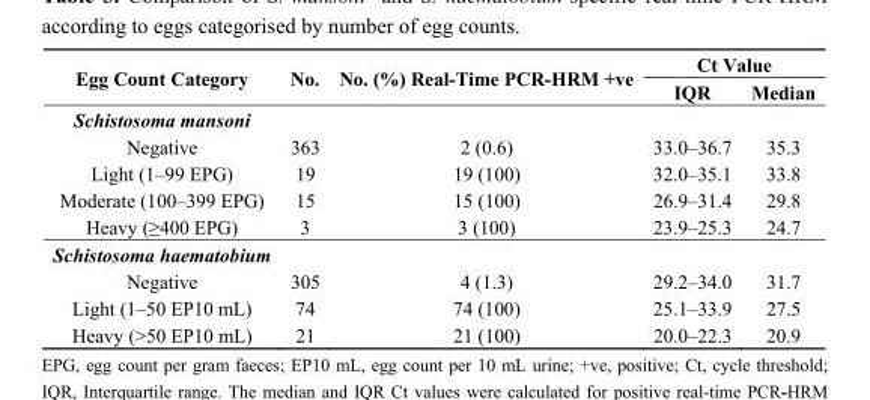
<table><thead><tr><td rowspan="2">Egg Count Category</td><td rowspan="2">No.</td><td rowspan="2">No. (%) Real-Time PCR-HRM +ve</td><td colspan="2">Ct Value</td></tr><tr><td>IQR</td><td>Median</td></tr></thead><tbody><tr><td colspan="5">Schistosoma mansoni</td></tr><tr><td>Negative</td><td>363</td><td>2 (0.6)</td><td>33.0–36.7</td><td>35.3</td></tr><tr><td>Light (1–99 EPG)</td><td>19</td><td>19 (100)</td><td>32.0–35.1</td><td>33.8</td></tr><tr><td>Moderate (100–399 EPG)</td><td>15</td><td>15 (100)</td><td>26.9–31.4</td><td>29.8</td></tr><tr><td>Heavy (≥400 EPG)</td><td>3</td><td>3 (100)</td><td>23.9–25.3</td><td>24.7</td></tr><tr><td colspan="5">Schistosoma haematobium</td></tr><tr><td>Negative</td><td>305</td><td>4 (1.3)</td><td>29.2–34.0</td><td>31.7</td></tr><tr><td>Light (1–50 EP10 mL)</td><td>74</td><td>74 (100)</td><td>25.1–33.9</td><td>27.5</td></tr><tr><td>Heavy (&gt;50 EP10 mL)</td><td>21</td><td>21 (100)</td><td>20.0–22.3</td><td>20.9</td></tr></tbody></table>